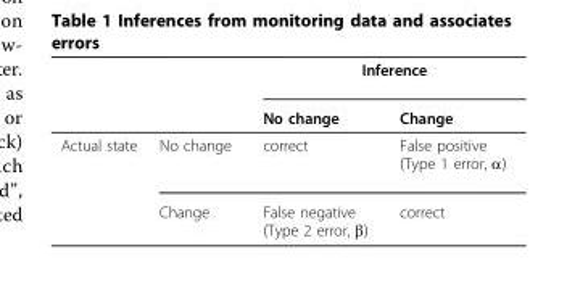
<table><thead><tr><td rowspan="2"></td><td rowspan="2"></td><td colspan="2">Inference</td></tr><tr><td>No change</td><td>Change</td></tr></thead><tbody><tr><td rowspan="2">Actual state</td><td>No change</td><td>correct</td><td>False positive (Type 1 error, α)</td></tr><tr><td>Change</td><td>False negative (Type 2 error, β)</td><td>correct</td></tr></tbody></table>